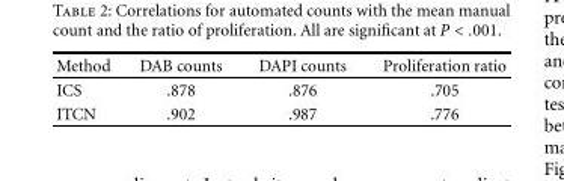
<table><thead><tr><td>Method</td><td>DAB counts</td><td>DAPI counts</td><td>Proliferation ratio</td></tr></thead><tbody><tr><td>ICS</td><td>.878</td><td>.876</td><td>.705</td></tr><tr><td>ITCN</td><td>.902</td><td>.987</td><td>.776</td></tr></tbody></table>